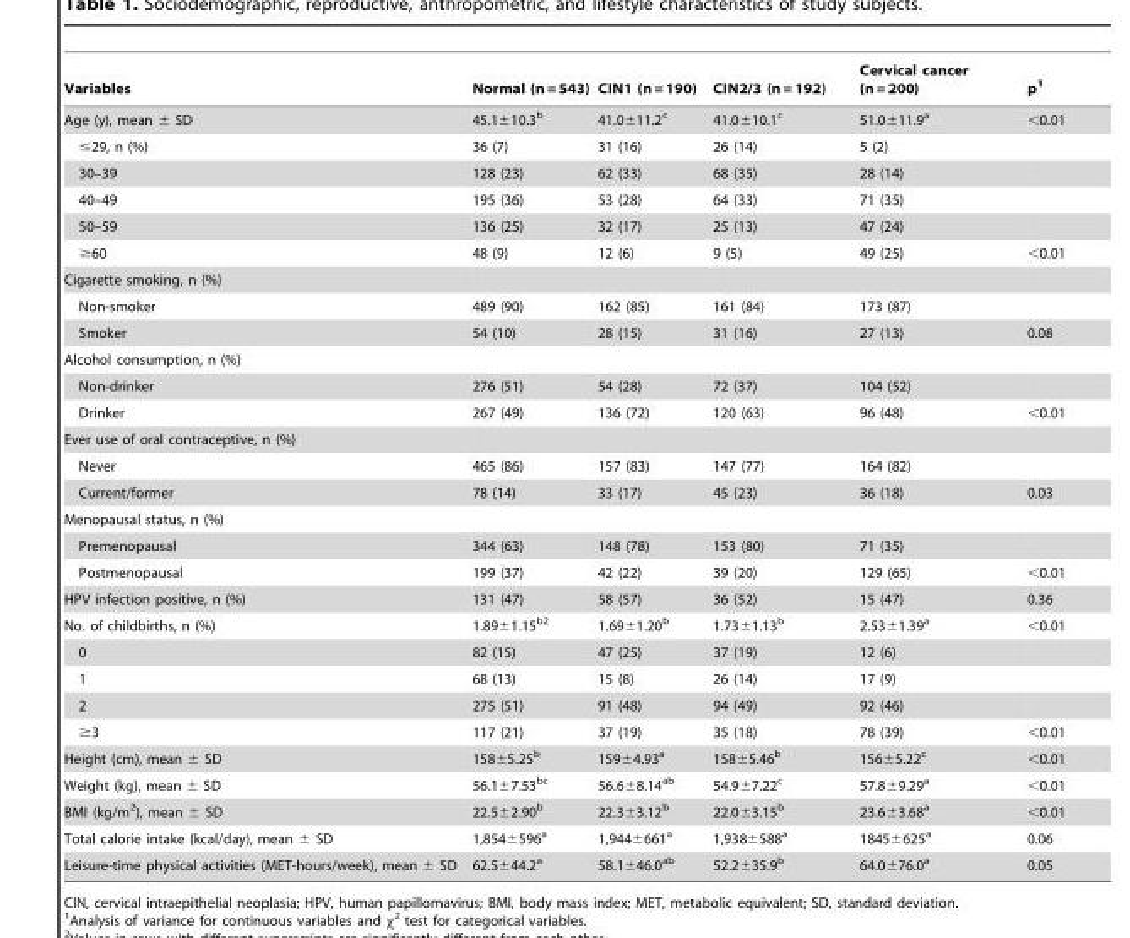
<table><thead><tr><td>Variables</td><td>Normal (n = 543)</td><td>CIN1 (n = 190)</td><td>CIN2/3 (n = 192)</td><td>Cervical cancer (n = 200)</td><td>p<sup>1</sup></td></tr></thead><tbody><tr><td>Age (y), mean ± SD</td><td>45.1±10.3<sup>b</sup></td><td>41.0±11.2<sup>c</sup></td><td>41.0±10.1<sup>c</sup></td><td>51.0±11.9<sup>a</sup></td><td>&lt;0.01</td></tr><tr><td>≤29, n (%)</td><td>36 (7)</td><td>31 (16)</td><td>26 (14)</td><td>5 (2)</td><td></td></tr><tr><td>30–39</td><td>128 (23)</td><td>62 (33)</td><td>68 (35)</td><td>28 (14)</td><td></td></tr><tr><td>40–49</td><td>195 (36)</td><td>53 (28)</td><td>64 (33)</td><td>71 (35)</td><td></td></tr><tr><td>50–59</td><td>136 (25)</td><td>32 (17)</td><td>25 (13)</td><td>47 (24)</td><td></td></tr><tr><td>≥60</td><td>48 (9)</td><td>12 (6)</td><td>9 (5)</td><td>49 (25)</td><td>&lt;0.01</td></tr><tr><td colspan="6">Cigarette smoking, n (%)</td></tr><tr><td>Non-smoker</td><td>489 (90)</td><td>162 (85)</td><td>161 (84)</td><td>173 (87)</td><td></td></tr><tr><td>Smoker</td><td>54 (10)</td><td>28 (15)</td><td>31 (16)</td><td>27 (13)</td><td>0.08</td></tr><tr><td colspan="6">Alcohol consumption, n (%)</td></tr><tr><td>Non-drinker</td><td>276 (51)</td><td>54 (28)</td><td>72 (37)</td><td>104 (52)</td><td></td></tr><tr><td>Drinker</td><td>267 (49)</td><td>136 (72)</td><td>120 (63)</td><td>96 (48)</td><td>&lt;0.01</td></tr><tr><td colspan="6">Ever use of oral contraceptive, n (%)</td></tr><tr><td>Never</td><td>465 (86)</td><td>157 (83)</td><td>147 (77)</td><td>164 (82)</td><td></td></tr><tr><td>Current/former</td><td>78 (14)</td><td>33 (17)</td><td>45 (23)</td><td>36 (18)</td><td>0.03</td></tr><tr><td colspan="6">Menopausal status, n (%)</td></tr><tr><td>Premenopausal</td><td>344 (63)</td><td>148 (78)</td><td>153 (80)</td><td>71 (35)</td><td></td></tr><tr><td>Postmenopausal</td><td>199 (37)</td><td>42 (22)</td><td>39 (20)</td><td>129 (65)</td><td>&lt;0.01</td></tr><tr><td>HPV infection positive, n (%)</td><td>131 (47)</td><td>58 (57)</td><td>36 (52)</td><td>15 (47)</td><td>0.36</td></tr><tr><td>No. of childbirths, n (%)</td><td>1.89±1.15<sup>b2</sup></td><td>1.69±1.20<sup>b</sup></td><td>1.73±1.13<sup>b</sup></td><td>2.53±1.39<sup>a</sup></td><td>&lt;0.01</td></tr><tr><td>0</td><td>82 (15)</td><td>47 (25)</td><td>37 (19)</td><td>12 (6)</td><td></td></tr><tr><td>1</td><td>68 (13)</td><td>15 (8)</td><td>26 (14)</td><td>17 (9)</td><td></td></tr><tr><td>2</td><td>275 (51)</td><td>91 (48)</td><td>94 (49)</td><td>92 (46)</td><td></td></tr><tr><td>≥3</td><td>117 (21)</td><td>37 (19)</td><td>35 (18)</td><td>78 (39)</td><td>&lt;0.01</td></tr><tr><td>Height (cm), mean ± SD</td><td>158±5.25<sup>b</sup></td><td>159±4.93<sup>a</sup></td><td>158±5.46<sup>b</sup></td><td>156±5.22<sup>c</sup></td><td>&lt;0.01</td></tr><tr><td>Weight (kg), mean ± SD</td><td>56.1±7.53<sup>bc</sup></td><td>56.6±8.14<sup>ab</sup></td><td>54.9±7.22<sup>c</sup></td><td>57.8±9.29<sup>a</sup></td><td>&lt;0.01</td></tr><tr><td>BMI (kg/m<sup>2</sup>), mean ± SD</td><td>22.5±2.90<sup>b</sup></td><td>22.3±3.12<sup>b</sup></td><td>22.0±3.15<sup>b</sup></td><td>23.6±3.68<sup>a</sup></td><td>&lt;0.01</td></tr><tr><td>Total calorie intake (kcal/day), mean ± SD</td><td>1,854±596<sup>a</sup></td><td>1,944±661<sup>a</sup></td><td>1,938±588<sup>a</sup></td><td>1845±625<sup>a</sup></td><td>0.06</td></tr><tr><td>Leisure-time physical activities (MET-hours/week), mean ± SD</td><td>62.5±44.2<sup>a</sup></td><td>58.1±46.0<sup>ab</sup></td><td>52.2±35.9<sup>b</sup></td><td>64.0±76.0<sup>a</sup></td><td>0.05</td></tr></tbody></table>